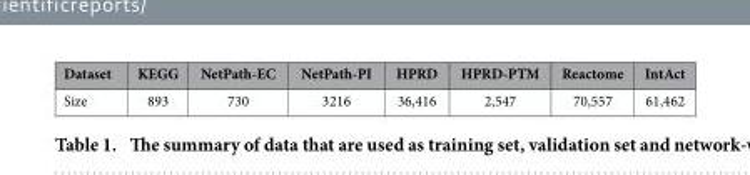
<table><thead><tr><td>Dataset</td><td>KEGG</td><td>NetPath-EC</td><td>NetPath-PI</td><td>HPRD</td><td>HPRD-PTM</td><td>Reactome</td><td>IntAct</td></tr></thead><tbody><tr><td>Size</td><td>893</td><td>730</td><td>3216</td><td>36,416</td><td>2,547</td><td>70,557</td><td>61,462</td></tr></tbody></table>